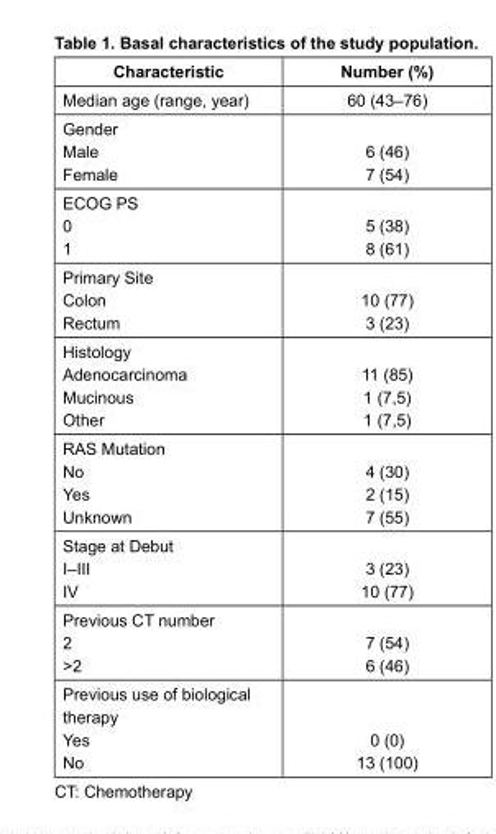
<table><thead><tr><td>Characteristic</td><td>Number (%)</td></tr></thead><tbody><tr><td>Median age (range, year)</td><td>60 (43–76)</td></tr><tr><td>Gender Male Female</td><td>6 (46) 7 (54)</td></tr><tr><td>ECOG PS 0 1</td><td>5 (38) 8 (61)</td></tr><tr><td>Primary Site Colon Rectum</td><td>10 (77) 3 (23)</td></tr><tr><td>Histology Adenocarcinoma Mucinous Other</td><td>11 (85) 1 (7,5) 1 (7,5)</td></tr><tr><td>RAS Mutation No Yes Unknown</td><td>4 (30) 2 (15) 7 (55)</td></tr><tr><td>Stage at Debut I–III IV</td><td>3 (23) 10 (77)</td></tr><tr><td>Previous CT number 2 &gt;2</td><td>7 (54) 6 (46)</td></tr><tr><td>Previous use of biological therapy Yes No</td><td>0 (0) 13 (100)</td></tr></tbody></table>